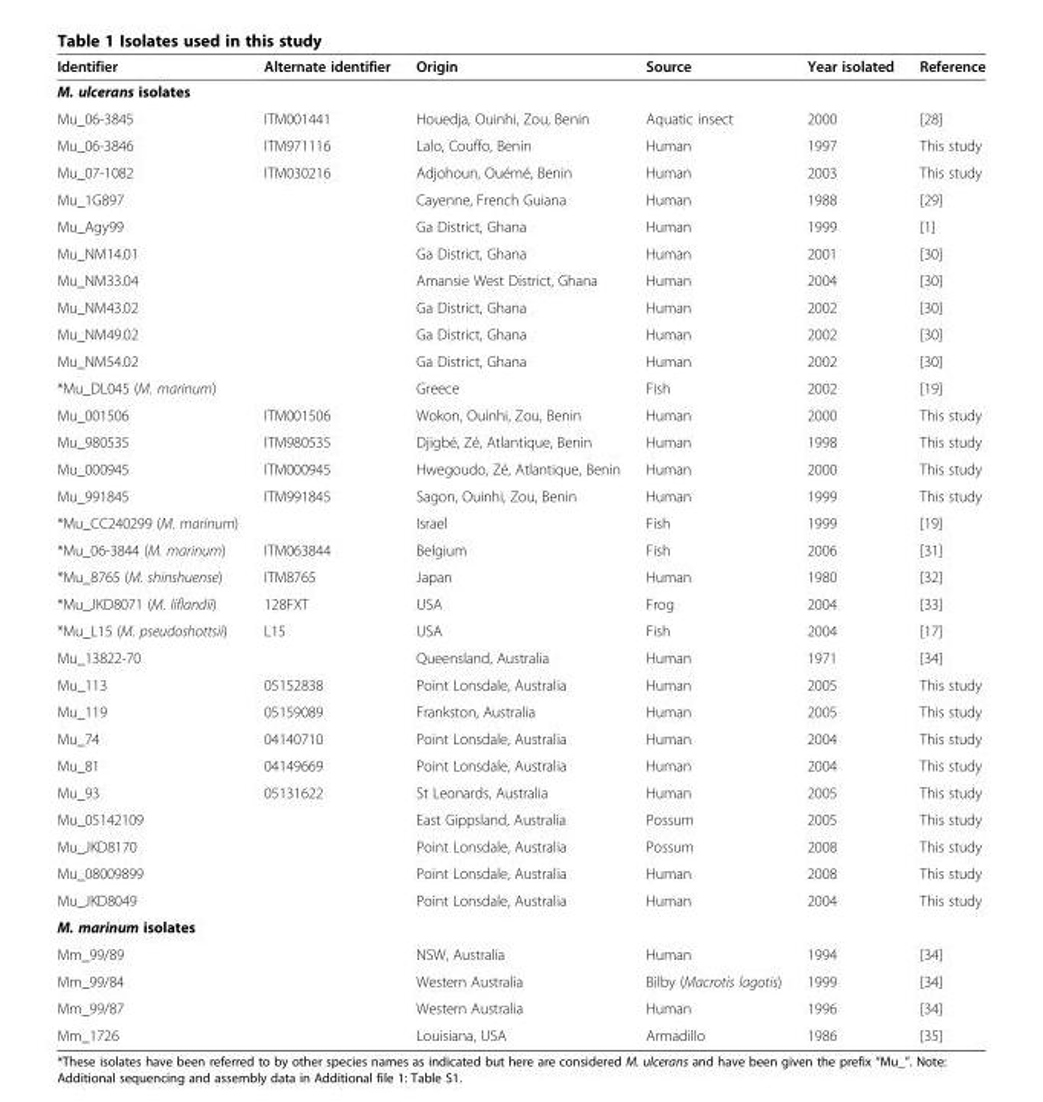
<table><thead><tr><td>Identifier</td><td>Alternate identifier</td><td>Origin</td><td>Source</td><td>Year isolated</td><td>Reference</td></tr></thead><tbody><tr><td colspan="6">M. ulcerans isolates</td></tr><tr><td>Mu_06-3845</td><td>ITM001441</td><td>Houedja, Ouinhi, Zou, Benin</td><td>Aquatic insect</td><td>2000</td><td>[28]</td></tr><tr><td>Mu_06-3846</td><td>ITM971116</td><td>Lalo, Couffo, Benin</td><td>Human</td><td>1997</td><td>This study</td></tr><tr><td>Mu_07-1082</td><td>ITM030216</td><td>Adjohoun, Ouémé, Benin</td><td>Human</td><td>2003</td><td>This study</td></tr><tr><td>Mu_1G897</td><td></td><td>Cayenne, French Guiana</td><td>Human</td><td>1988</td><td>[29]</td></tr><tr><td>Mu_Agy99</td><td></td><td>Ga District, Ghana</td><td>Human</td><td>1999</td><td>[1]</td></tr><tr><td>Mu_NM14.01</td><td></td><td>Ga District, Ghana</td><td>Human</td><td>2001</td><td>[30]</td></tr><tr><td>Mu_NM33.04</td><td></td><td>Amansie West District, Ghana</td><td>Human</td><td>2004</td><td>[30]</td></tr><tr><td>Mu_NM43.02</td><td></td><td>Ga District, Ghana</td><td>Human</td><td>2002</td><td>[30]</td></tr><tr><td>Mu_NM49.02</td><td></td><td>Ga District, Ghana</td><td>Human</td><td>2002</td><td>[30]</td></tr><tr><td>Mu_NM54.02</td><td></td><td>Ga District, Ghana</td><td>Human</td><td>2002</td><td>[30]</td></tr><tr><td>*Mu_DL045 (M. marinum)</td><td></td><td>Greece</td><td>Fish</td><td>2002</td><td>[19]</td></tr><tr><td>Mu_001506</td><td>ITM001506</td><td>Wokon, Ouinhi, Zou, Benin</td><td>Human</td><td>2000</td><td>This study</td></tr><tr><td>Mu_980535</td><td>ITM980535</td><td>Djigbé, Zé, Atlantique, Benin</td><td>Human</td><td>1998</td><td>This study</td></tr><tr><td>Mu_000945</td><td>ITM000945</td><td>Hwegoudo, Zé, Atlantique, Benin</td><td>Human</td><td>2000</td><td>This study</td></tr><tr><td>Mu_991845</td><td>ITM991845</td><td>Sagon, Ouinhi, Zou, Benin</td><td>Human</td><td>1999</td><td>This study</td></tr><tr><td>*Mu_CC240299 (M. marinum)</td><td></td><td>Israel</td><td>Fish</td><td>1999</td><td>[19]</td></tr><tr><td>*Mu_06-3844 (M. marinum)</td><td>ITM063844</td><td>Belgium</td><td>Fish</td><td>2006</td><td>[31]</td></tr><tr><td>*Mu_8765 (M. shinshuense)</td><td>ITM8765</td><td>Japan</td><td>Human</td><td>1980</td><td>[32]</td></tr><tr><td>*Mu_JKD8071 (M. liflandii)</td><td>128FXT</td><td>USA</td><td>Frog</td><td>2004</td><td>[33]</td></tr><tr><td>*Mu_L15 (M. pseudoshottsii)</td><td>L15</td><td>USA</td><td>Fish</td><td>2004</td><td>[17]</td></tr><tr><td>Mu_13822-70</td><td></td><td>Queensland, Australia</td><td>Human</td><td>1971</td><td>[34]</td></tr><tr><td>Mu_113</td><td>05152838</td><td>Point Lonsdale, Australia</td><td>Human</td><td>2005</td><td>This study</td></tr><tr><td>Mu_119</td><td>05159089</td><td>Frankston, Australia</td><td>Human</td><td>2005</td><td>This study</td></tr><tr><td>Mu_74</td><td>04140710</td><td>Point Lonsdale, Australia</td><td>Human</td><td>2004</td><td>This study</td></tr><tr><td>Mu_81</td><td>04149669</td><td>Point Lonsdale, Australia</td><td>Human</td><td>2004</td><td>This study</td></tr><tr><td>Mu_93</td><td>05131622</td><td>St Leonards, Australia</td><td>Human</td><td>2005</td><td>This study</td></tr><tr><td>Mu_05142109</td><td></td><td>East Gippsland, Australia</td><td>Possum</td><td>2005</td><td>This study</td></tr><tr><td>Mu_JKD8170</td><td></td><td>Point Lonsdale, Australia</td><td>Possum</td><td>2008</td><td>This study</td></tr><tr><td>Mu_08009899</td><td></td><td>Point Lonsdale, Australia</td><td>Human</td><td>2008</td><td>This study</td></tr><tr><td>Mu_JKD8049</td><td></td><td>Point Lonsdale, Australia</td><td>Human</td><td>2004</td><td>This study</td></tr><tr><td colspan="6">M. marinum isolates</td></tr><tr><td>Mm_99/89</td><td></td><td>NSW, Australia</td><td>Human</td><td>1994</td><td>[34]</td></tr><tr><td>Mm_99/84</td><td></td><td>Western Australia</td><td>Bilby (Macrotis lagotis)</td><td>1999</td><td>[34]</td></tr><tr><td>Mm_99/87</td><td></td><td>Western Australia</td><td>Human</td><td>1996</td><td>[34]</td></tr><tr><td>Mm_1726</td><td></td><td>Louisiana, USA</td><td>Armadillo</td><td>1986</td><td>[35]</td></tr></tbody></table>